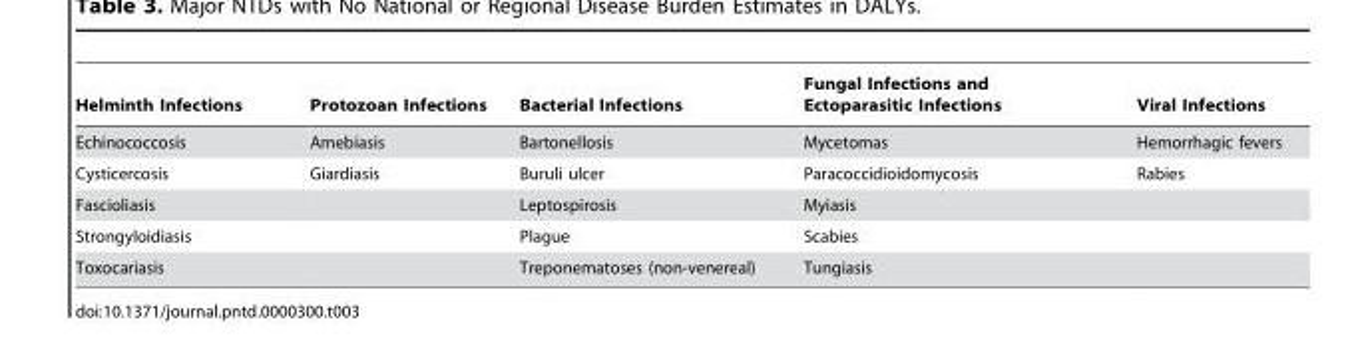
<table><thead><tr><td>Helminth Infections</td><td>Protozoan Infections</td><td>Bacterial Infections</td><td>Fungal Infections and Ectoparasitic Infections</td><td>Viral Infections</td></tr></thead><tbody><tr><td>Echinococcosis</td><td>Amebiasis</td><td>Bartonellosis</td><td>Mycetomas</td><td>Hemorrhagic fevers</td></tr><tr><td>Cysticercosis</td><td>Giardiasis</td><td>Buruli ulcer</td><td>Paracoccidioidomycosis</td><td>Rabies</td></tr><tr><td>Fascioliasis</td><td></td><td>Leptospirosis</td><td>Myiasis</td><td></td></tr><tr><td>Strongyloidiasis</td><td></td><td>Plague</td><td>Scabies</td><td></td></tr><tr><td>Toxocariasis</td><td></td><td>Treponematoses (non-venereal)</td><td>Tungiasis</td><td></td></tr></tbody></table>